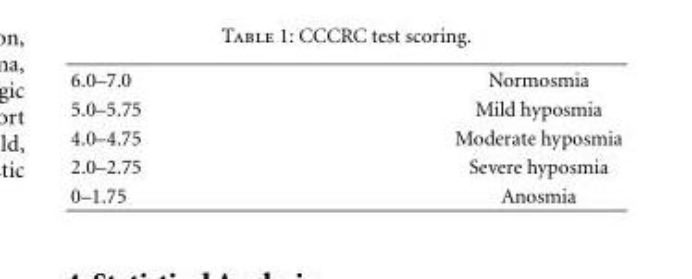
<table><tbody><tr><td>6.0–7.0</td><td>Normosmia</td></tr><tr><td>5.0–5.75</td><td>Mild hyposmia</td></tr><tr><td>4.0–4.75</td><td>Moderate hyposmia</td></tr><tr><td>2.0–2.75</td><td>Severe hyposmia</td></tr><tr><td>0–1.75</td><td>Anosmia</td></tr></tbody></table>